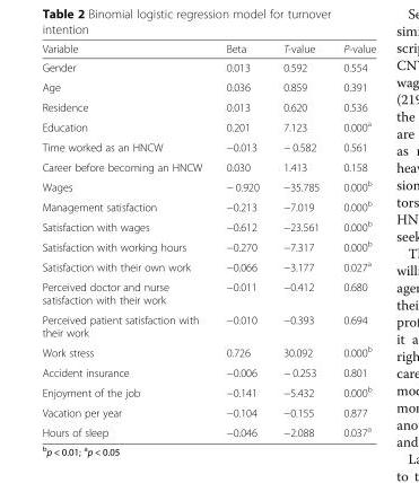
<table><thead><tr><td>Variable</td><td>Beta</td><td>T-value</td><td>P-value</td></tr></thead><tbody><tr><td>Gender</td><td>0.013</td><td>0.592</td><td>0.554</td></tr><tr><td>Age</td><td>0.036</td><td>0.859</td><td>0.391</td></tr><tr><td>Residence</td><td>0.013</td><td>0.620</td><td>0.536</td></tr><tr><td>Education</td><td>0.201</td><td>7.123</td><td>0.000<sup>a</sup></td></tr><tr><td>Time worked as an HNCW</td><td>−0.013</td><td>− 0.582</td><td>0.561</td></tr><tr><td>Career before becoming an HNCW</td><td>0.030</td><td>1.413</td><td>0.158</td></tr><tr><td>Wages</td><td>− 0.920</td><td>−35.785</td><td>0.000<sup>b</sup></td></tr><tr><td>Management satisfaction</td><td>−0.213</td><td>−7.019</td><td>0.000<sup>b</sup></td></tr><tr><td>Satisfaction with wages</td><td>−0.612</td><td>−23.561</td><td>0.000<sup>b</sup></td></tr><tr><td>Satisfaction with working hours</td><td>−0.270</td><td>−7.317</td><td>0.000<sup>b</sup></td></tr><tr><td>Satisfaction with their own work</td><td>−0.066</td><td>−3.177</td><td>0.027<sup>a</sup></td></tr><tr><td>Perceived doctor and nurse satisfaction with their work</td><td>−0.011</td><td>−0.412</td><td>0.680</td></tr><tr><td>Perceived patient satisfaction with their work</td><td>−0.010</td><td>−0.393</td><td>0.694</td></tr><tr><td>Work stress</td><td>0.726</td><td>30.092</td><td>0.000<sup>b</sup></td></tr><tr><td>Accident insurance</td><td>−0.006</td><td>− 0.253</td><td>0.801</td></tr><tr><td>Enjoyment of the job</td><td>−0.141</td><td>−5.432</td><td>0.000<sup>b</sup></td></tr><tr><td>Vacation per year</td><td>−0.104</td><td>−0.155</td><td>0.877</td></tr><tr><td>Hours of sleep</td><td>−0.046</td><td>−2.088</td><td>0.037<sup>a</sup></td></tr></tbody></table>